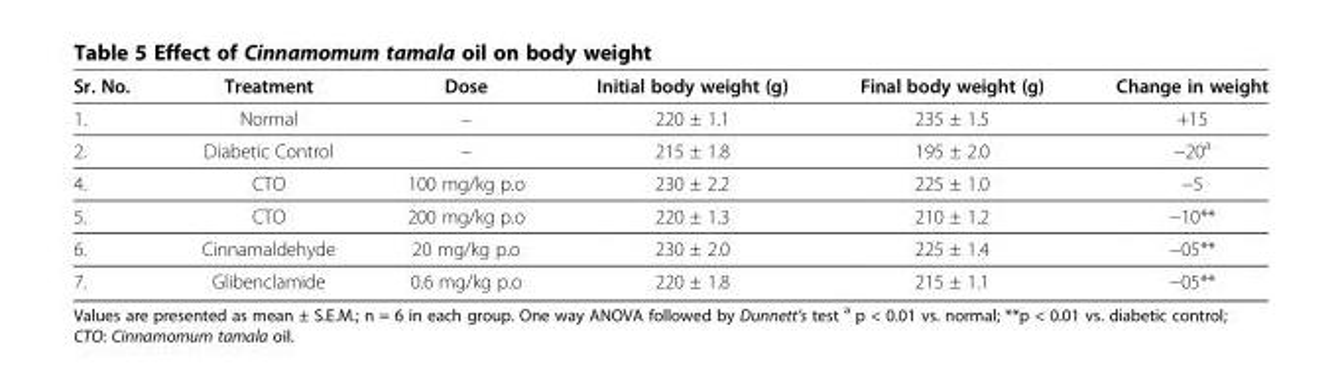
<table><thead><tr><td>Sr. No.</td><td>Treatment</td><td>Dose</td><td>Initial body weight (g)</td><td>Final body weight (g)</td><td>Change in weight</td></tr></thead><tbody><tr><td>1.</td><td>Normal</td><td>–</td><td>220 ± 1.1</td><td>235 ± 1.5</td><td>+15</td></tr><tr><td>2.</td><td>Diabetic Control</td><td>–</td><td>215 ± 1.8</td><td>195 ± 2.0</td><td>−20<sup>a</sup></td></tr><tr><td>4.</td><td>CTO</td><td>100 mg/kg p.o</td><td>230 ± 2.2</td><td>225 ± 1.0</td><td>−5</td></tr><tr><td>5.</td><td>CTO</td><td>200 mg/kg p.o</td><td>220 ± 1.3</td><td>210 ± 1.2</td><td>−10**</td></tr><tr><td>6.</td><td>Cinnamaldehyde</td><td>20 mg/kg p.o</td><td>230 ± 2.0</td><td>225 ± 1.4</td><td>−05**</td></tr><tr><td>7.</td><td>Glibenclamide</td><td>0.6 mg/kg p.o</td><td>220 ± 1.8</td><td>215 ± 1.1</td><td>−05**</td></tr></tbody></table>